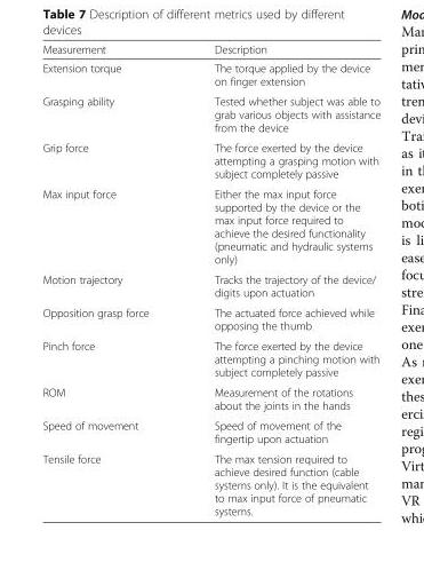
<table><thead><tr><td>Measurement</td><td>Description</td></tr></thead><tbody><tr><td>Extension torque</td><td>The torque applied by the device on finger extension</td></tr><tr><td>Grasping ability</td><td>Tested whether subject was able to grab various objects with assistance from the device</td></tr><tr><td>Grip force</td><td>The force exerted by the device attempting a grasping motion with subject completely passive</td></tr><tr><td>Max input force</td><td>Either the max input force supported by the device or the max input force required to achieve the desired functionality (pneumatic and hydraulic systems only)</td></tr><tr><td>Motion trajectory</td><td>Tracks the trajectory of the device/ digits upon actuation</td></tr><tr><td>Opposition grasp force</td><td>The actuated force achieved while opposing the thumb</td></tr><tr><td>Pinch force</td><td>The force exerted by the device attempting a pinching motion with subject completely passive</td></tr><tr><td>ROM</td><td>Measurement of the rotations about the joints in the hands</td></tr><tr><td>Speed of movement</td><td>Speed of movement of the fingertip upon actuation</td></tr><tr><td>Tensile force</td><td>The max tension required to achieve desired function (cable systems only). It is the equivalent to max input force of pneumatic systems.</td></tr></tbody></table>